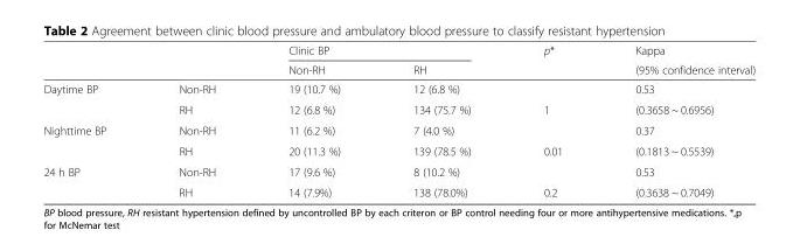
<table><thead><tr><td rowspan="2"></td><td rowspan="2"></td><td colspan="2">Clinic BP</td><td rowspan="2">p*</td><td rowspan="2">Kappa (95% confidence interval)</td></tr><tr><td>Non-RH</td><td>RH</td></tr></thead><tbody><tr><td rowspan="2">Daytime BP</td><td>Non-RH</td><td>19 (10.7 %)</td><td>12 (6.8 %)</td><td></td><td>0.53</td></tr><tr><td>RH</td><td>12 (6.8 %)</td><td>134 (75.7 %)</td><td>1</td><td>(0.3658 ~ 0.6956)</td></tr><tr><td rowspan="2">Nighttime BP</td><td>Non-RH</td><td>11 (6.2 %)</td><td>7 (4.0 %)</td><td></td><td>0.37</td></tr><tr><td>RH</td><td>20 (11.3 %)</td><td>139 (78.5 %)</td><td>0.01</td><td>(0.1813 ~ 0.5539)</td></tr><tr><td rowspan="2">24 h BP</td><td>Non-RH</td><td>17 (9.6 %)</td><td>8 (10.2 %)</td><td></td><td>0.53</td></tr><tr><td>RH</td><td>14 (7.9%)</td><td>138 (78.0%)</td><td>0.2</td><td>(0.3638 ~ 0.7049)</td></tr></tbody></table>